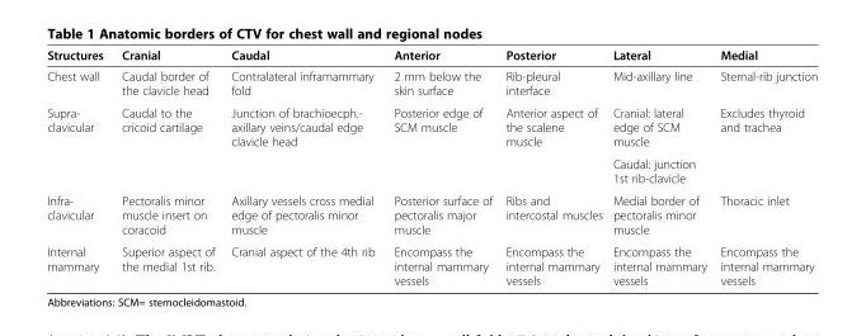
<table><thead><tr><td>Structures</td><td>Cranial</td><td>Caudal</td><td>Anterior</td><td>Posterior</td><td>Lateral</td><td>Medial</td></tr></thead><tbody><tr><td>Chest wall</td><td>Caudal border of the clavicle head</td><td>Contralateral inframammary fold</td><td>2 mm below the skin surface</td><td>Rib-pleural interface</td><td>Mid-axillary line</td><td>Sternal-rib junction</td></tr><tr><td rowspan="2">Supra- clavicular</td><td rowspan="2">Caudal to the cricoid cartilage</td><td rowspan="2">Junction of brachioecph.- axillary veins/caudal edge clavicle head</td><td rowspan="2">Posterior edge of SCM muscle</td><td rowspan="2">Anterior aspect of the scalene muscle</td><td>Cranial: lateral edge of SCM muscle</td><td rowspan="2">Excludes thyroid and trachea</td></tr><tr><td>Caudal: junction 1st rib-clavicle</td></tr><tr><td>Infra- clavicular</td><td>Pectoralis minor muscle insert on coracoid</td><td>Axillary vessels cross medial edge of pectoralis minor muscle</td><td>Posterior surface of pectoralis major muscle</td><td>Ribs and intercostal muscles</td><td>Medial border of pectoralis minor muscle</td><td>Thoracic inlet</td></tr><tr><td>Internal mammary</td><td>Superior aspect of the medial 1st rib.</td><td>Cranial aspect of the 4th rib</td><td>Encompass the internal mammary vessels</td><td>Encompass the internal mammary vessels</td><td>Encompass the internal mammary vessels</td><td>Encompass the internal mammary vessels</td></tr></tbody></table>